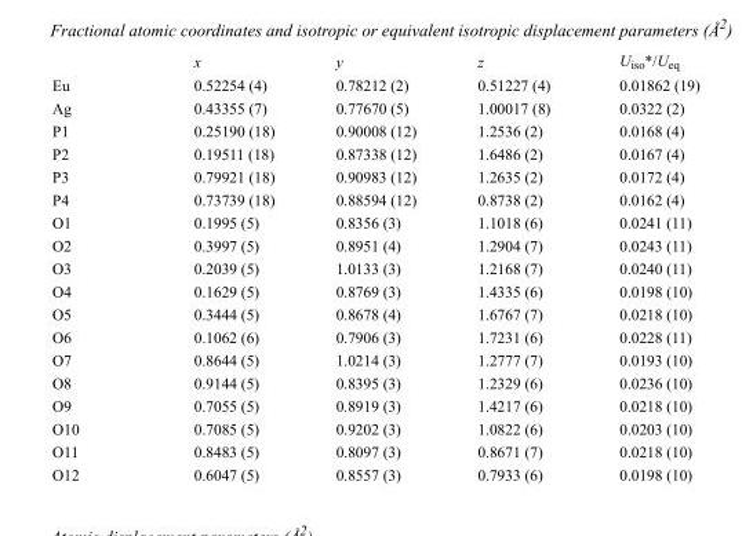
<table><thead><tr><td></td><td>x</td><td>y</td><td>z</td><td>U<sub>iso</sub>*/U<sub>eq</sub></td></tr></thead><tbody><tr><td>Eu</td><td>0.52254 (4)</td><td>0.78212 (2)</td><td>0.51227 (4)</td><td>0.01862 (19)</td></tr><tr><td>Ag</td><td>0.43355 (7)</td><td>0.77670 (5)</td><td>1.00017 (8)</td><td>0.0322 (2)</td></tr><tr><td>P1</td><td>0.25190 (18)</td><td>0.90008 (12)</td><td>1.2536 (2)</td><td>0.0168 (4)</td></tr><tr><td>P2</td><td>0.19511 (18)</td><td>0.87338 (12)</td><td>1.6486 (2)</td><td>0.0167 (4)</td></tr><tr><td>P3</td><td>0.79921 (18)</td><td>0.90983 (12)</td><td>1.2635 (2)</td><td>0.0172 (4)</td></tr><tr><td>P4</td><td>0.73739 (18)</td><td>0.88594 (12)</td><td>0.8738 (2)</td><td>0.0162 (4)</td></tr><tr><td>O1</td><td>0.1995 (5)</td><td>0.8356 (3)</td><td>1.1018 (6)</td><td>0.0241 (11)</td></tr><tr><td>O2</td><td>0.3997 (5)</td><td>0.8951 (4)</td><td>1.2904 (7)</td><td>0.0243 (11)</td></tr><tr><td>O3</td><td>0.2039 (5)</td><td>1.0133 (3)</td><td>1.2168 (7)</td><td>0.0240 (11)</td></tr><tr><td>O4</td><td>0.1629 (5)</td><td>0.8769 (3)</td><td>1.4335 (6)</td><td>0.0198 (10)</td></tr><tr><td>O5</td><td>0.3444 (5)</td><td>0.8678 (4)</td><td>1.6767 (7)</td><td>0.0218 (10)</td></tr><tr><td>O6</td><td>0.1062 (6)</td><td>0.7906 (3)</td><td>1.7231 (6)</td><td>0.0228 (11)</td></tr><tr><td>O7</td><td>0.8644 (5)</td><td>1.0214 (3)</td><td>1.2777 (7)</td><td>0.0193 (10)</td></tr><tr><td>O8</td><td>0.9144 (5)</td><td>0.8395 (3)</td><td>1.2329 (6)</td><td>0.0236 (10)</td></tr><tr><td>O9</td><td>0.7055 (5)</td><td>0.8919 (3)</td><td>1.4217 (6)</td><td>0.0218 (10)</td></tr><tr><td>O10</td><td>0.7085 (5)</td><td>0.9202 (3)</td><td>1.0822 (6)</td><td>0.0203 (10)</td></tr><tr><td>O11</td><td>0.8483 (5)</td><td>0.8097 (3)</td><td>0.8671 (7)</td><td>0.0218 (10)</td></tr><tr><td>O12</td><td>0.6047 (5)</td><td>0.8557 (3)</td><td>0.7933 (6)</td><td>0.0198 (10)</td></tr></tbody></table>